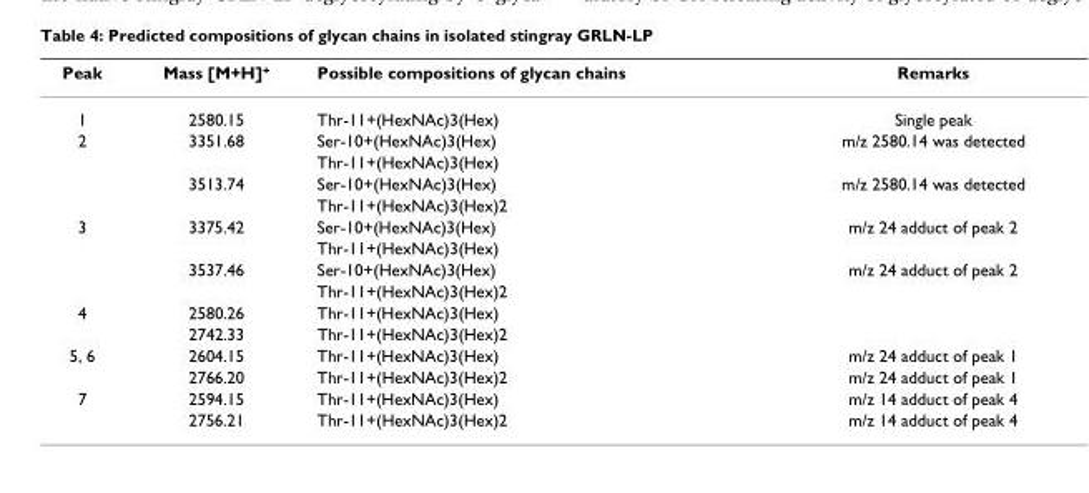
<table><thead><tr><td>Peak</td><td>Mass [M+H]<sup>+</sup></td><td>Possible compositions of glycan chains</td><td>Remarks</td></tr></thead><tbody><tr><td>1</td><td>2580.15</td><td>Thr-11+(HexNAc)3(Hex)</td><td>Single peak</td></tr><tr><td rowspan="4">2</td><td>3351.68</td><td>Ser-10+(HexNAc)3(Hex)</td><td>m/z 2580.14 was detected</td></tr><tr><td></td><td>Thr-11+(HexNAc)3(Hex)</td><td></td></tr><tr><td>3513.74</td><td>Ser-10+(HexNAc)3(Hex)</td><td>m/z 2580.14 was detected</td></tr><tr><td></td><td>Thr-11+(HexNAc)3(Hex)2</td><td></td></tr><tr><td rowspan="4">3</td><td>3375.42</td><td>Ser-10+(HexNAc)3(Hex)</td><td>m/z 24 adduct of peak 2</td></tr><tr><td></td><td>Thr-11+(HexNAc)3(Hex)</td><td></td></tr><tr><td>3537.46</td><td>Ser-10+(HexNAc)3(Hex)</td><td>m/z 24 adduct of peak 2</td></tr><tr><td></td><td>Thr-11+(HexNAc)3(Hex)2</td><td></td></tr><tr><td rowspan="2">4</td><td>2580.26</td><td>Thr-11+(HexNAc)3(Hex)</td><td></td></tr><tr><td>2742.33</td><td>Thr-11+(HexNAc)3(Hex)2</td><td></td></tr><tr><td rowspan="2">5, 6</td><td>2604.15</td><td>Thr-11+(HexNAc)3(Hex)</td><td>m/z 24 adduct of peak 1</td></tr><tr><td>2766.20</td><td>Thr-11+(HexNAc)3(Hex)2</td><td>m/z 24 adduct of peak 1</td></tr><tr><td rowspan="2">7</td><td>2594.15</td><td>Thr-11+(HexNAc)3(Hex)</td><td>m/z 14 adduct of peak 4</td></tr><tr><td>2756.21</td><td>Thr-11+(HexNAc)3(Hex)2</td><td>m/z 14 adduct of peak 4</td></tr></tbody></table>